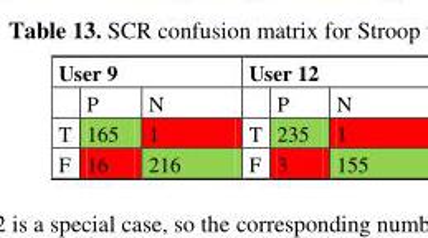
<table><thead><tr><td colspan="3">User 9</td><td colspan="3">User 12</td></tr><tr><td></td><td>P</td><td>N</td><td></td><td>P</td><td>N</td></tr></thead><tbody><tr><td>T</td><td>165</td><td>1</td><td>T</td><td>235</td><td>1</td></tr><tr><td>F</td><td>16</td><td>216</td><td>F</td><td>3</td><td>155</td></tr></tbody></table>